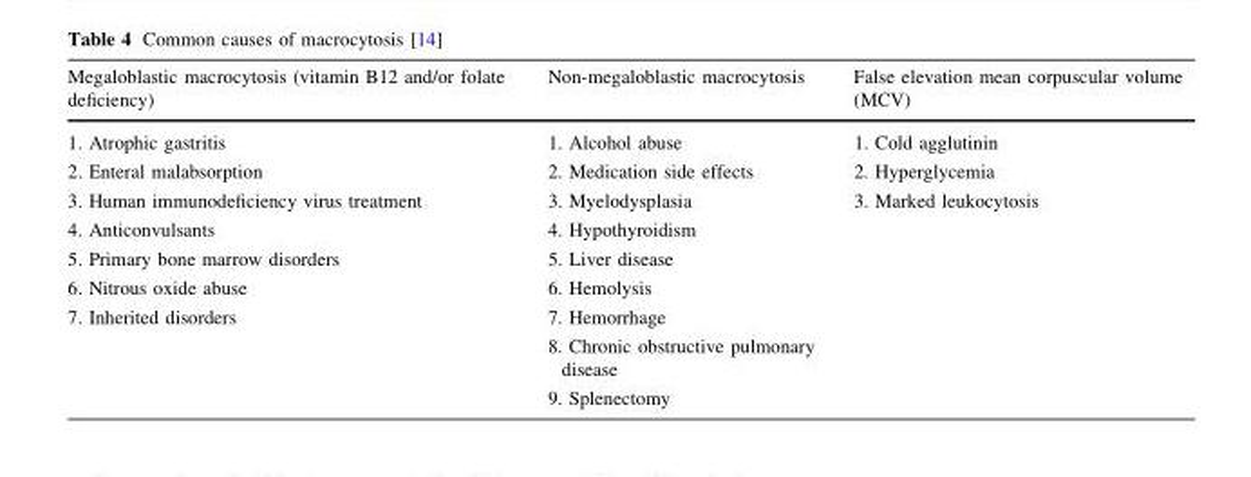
<table><thead><tr><td>Megaloblastic macrocytosis (vitamin B12 and/or folate deficiency)</td><td>Non-megaloblastic macrocytosis</td><td>False elevation mean corpuscular volume (MCV)</td></tr></thead><tbody><tr><td>1. Atrophic gastritis</td><td>1. Alcohol abuse</td><td>1. Cold agglutinin</td></tr><tr><td>2. Enteral malabsorption</td><td>2. Medication side effects</td><td>2. Hyperglycemia</td></tr><tr><td>3. Human immunodeficiency virus treatment</td><td>3. Myelodysplasia</td><td>3. Marked leukocytosis</td></tr><tr><td>4. Anticonvulsants</td><td>4. Hypothyroidism</td><td></td></tr><tr><td>5. Primary bone marrow disorders</td><td>5. Liver disease</td><td></td></tr><tr><td>6. Nitrous oxide abuse</td><td>6. Hemolysis</td><td></td></tr><tr><td rowspan="3">7. Inherited disorders</td><td>7. Hemorrhage</td><td></td></tr><tr><td>8. Chronic obstructive pulmonary disease</td><td></td></tr><tr><td>9. Splenectomy</td><td></td></tr></tbody></table>